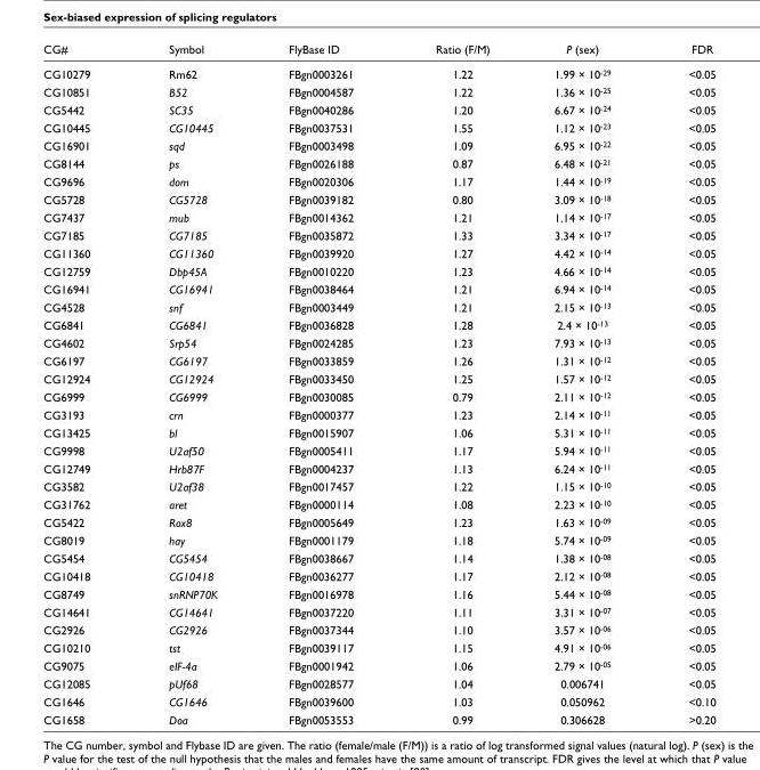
<table><thead><tr><td>CG#</td><td>Symbol</td><td>FlyBase ID</td><td>Ratio (F/M)</td><td>P (sex)</td><td>FDR</td></tr></thead><tbody><tr><td>CG10279</td><td>Rm62</td><td>FBgn0003261</td><td>1.22</td><td>1.99 × 10-29</td><td>&lt;0.05</td></tr><tr><td>CG10851</td><td>B52</td><td>FBgn0004587</td><td>1.22</td><td>1.36 × 10-25</td><td>&lt;0.05</td></tr><tr><td>CG5442</td><td>SC35</td><td>FBgn0040286</td><td>1.20</td><td>6.67 × 10-24</td><td>&lt;0.05</td></tr><tr><td>CG10445</td><td>CG10445</td><td>FBgn0037531</td><td>1.55</td><td>1.12 × 10-23</td><td>&lt;0.05</td></tr><tr><td>CG16901</td><td>sqd</td><td>FBgn0003498</td><td>1.09</td><td>6.95 × 10-22</td><td>&lt;0.05</td></tr><tr><td>CG8144</td><td>ps</td><td>FBgn0026188</td><td>0.87</td><td>6.48 × 10-21</td><td>&lt;0.05</td></tr><tr><td>CG9696</td><td>dom</td><td>FBgn0020306</td><td>1.17</td><td>1.44 × 10-19</td><td>&lt;0.05</td></tr><tr><td>CG5728</td><td>CG5728</td><td>FBgn0039182</td><td>0.80</td><td>3.09 × 10-18</td><td>&lt;0.05</td></tr><tr><td>CG7437</td><td>mub</td><td>FBgn0014362</td><td>1.21</td><td>1.14 × 10-17</td><td>&lt;0.05</td></tr><tr><td>CG7185</td><td>CG7185</td><td>FBgn0035872</td><td>1.33</td><td>3.34 × 10-17</td><td>&lt;0.05</td></tr><tr><td>CG11360</td><td>CG11360</td><td>FBgn0039920</td><td>1.27</td><td>4.42 × 10-14</td><td>&lt;0.05</td></tr><tr><td>CG12759</td><td>Dbp45A</td><td>FBgn0010220</td><td>1.23</td><td>4.66 × 10-14</td><td>&lt;0.05</td></tr><tr><td>CG16941</td><td>CG16941</td><td>FBgn0038464</td><td>1.21</td><td>6.94 × 10-14</td><td>&lt;0.05</td></tr><tr><td>CG4528</td><td>snf</td><td>FBgn0003449</td><td>1.21</td><td>2.15 × 10-13</td><td>&lt;0.05</td></tr><tr><td>CG6841</td><td>CG6841</td><td>FBgn0036828</td><td>1.28</td><td>2.4 × 10-13</td><td>&lt;0.05</td></tr><tr><td>CG4602</td><td>Srp54</td><td>FBgn0024285</td><td>1.23</td><td>7.93 × 10-13</td><td>&lt;0.05</td></tr><tr><td>CG6197</td><td>CG6197</td><td>FBgn0033859</td><td>1.26</td><td>1.31 × 10-12</td><td>&lt;0.05</td></tr><tr><td>CG12924</td><td>CG12924</td><td>FBgn0033450</td><td>1.25</td><td>1.57 × 10-12</td><td>&lt;0.05</td></tr><tr><td>CG6999</td><td>CG6999</td><td>FBgn0030085</td><td>0.79</td><td>2.11 × 10-12</td><td>&lt;0.05</td></tr><tr><td>CG3193</td><td>crn</td><td>FBgn0000377</td><td>1.23</td><td>2.14 × 10-11</td><td>&lt;0.05</td></tr><tr><td>CG13425</td><td>bl</td><td>FBgn0015907</td><td>1.06</td><td>5.31 × 10-11</td><td>&lt;0.05</td></tr><tr><td>CG9998</td><td>U2af50</td><td>FBgn0005411</td><td>1.17</td><td>5.94 × 10-11</td><td>&lt;0.05</td></tr><tr><td>CG12749</td><td>Hrb87F</td><td>FBgn0004237</td><td>1.13</td><td>6.24 × 10-11</td><td>&lt;0.05</td></tr><tr><td>CG3582</td><td>U2af38</td><td>FBgn0017457</td><td>1.22</td><td>1.15 × 10-10</td><td>&lt;0.05</td></tr><tr><td>CG31762</td><td>aret</td><td>FBgn0000114</td><td>1.08</td><td>2.23 × 10-10</td><td>&lt;0.05</td></tr><tr><td>CG5422</td><td>Rox8</td><td>FBgn0005649</td><td>1.23</td><td>1.63 × 10-09</td><td>&lt;0.05</td></tr><tr><td>CG8019</td><td>hay</td><td>FBgn0001179</td><td>1.18</td><td>5.74 × 10-09</td><td>&lt;0.05</td></tr><tr><td>CG5454</td><td>CG5454</td><td>FBgn0038667</td><td>1.14</td><td>1.38 × 10-08</td><td>&lt;0.05</td></tr><tr><td>CG10418</td><td>CG10418</td><td>FBgn0036277</td><td>1.17</td><td>2.12 × 10-08</td><td>&lt;0.05</td></tr><tr><td>CG8749</td><td>snRNP70K</td><td>FBgn0016978</td><td>1.16</td><td>5.44 × 10-08</td><td>&lt;0.05</td></tr><tr><td>CG14641</td><td>CG14641</td><td>FBgn0037220</td><td>1.11</td><td>3.31 × 10-07</td><td>&lt;0.05</td></tr><tr><td>CG2926</td><td>CG2926</td><td>FBgn0037344</td><td>1.10</td><td>3.57 × 10-06</td><td>&lt;0.05</td></tr><tr><td>CG10210</td><td>tst</td><td>FBgn0039117</td><td>1.15</td><td>4.91 × 10-06</td><td>&lt;0.05</td></tr><tr><td>CG9075</td><td>eIF-4a</td><td>FBgn0001942</td><td>1.06</td><td>2.79 × 10-05</td><td>&lt;0.05</td></tr><tr><td>CG12085</td><td>pUf68</td><td>FBgn0028577</td><td>1.04</td><td>0.006741</td><td>&lt;0.05</td></tr><tr><td>CG1646</td><td>CG1646</td><td>FBgn0039600</td><td>1.03</td><td>0.050962</td><td>&lt;0.10</td></tr><tr><td>CG1658</td><td>Doa</td><td>FBgn0053553</td><td>0.99</td><td>0.306628</td><td>&gt;0.20</td></tr></tbody></table>